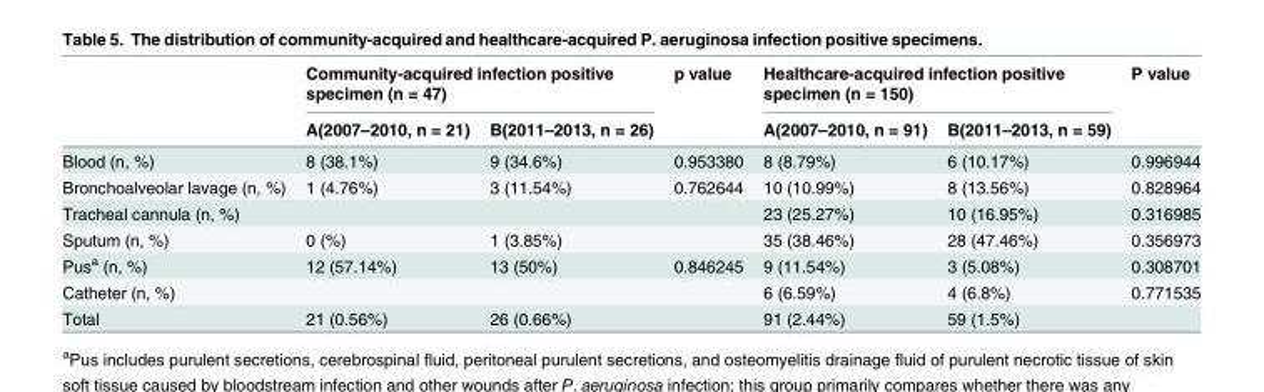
<table><thead><tr><td rowspan="2"></td><td colspan="2">Community-acquired infection positive specimen (n = 47)</td><td rowspan="2">p value</td><td colspan="2">Healthcare-acquired infection positive specimen (n = 150)</td><td rowspan="2">P value</td></tr><tr><td>A(2007–2010, n = 21)</td><td>B(2011–2013, n = 26)</td><td>A(2007–2010, n = 91)</td><td>B(2011–2013, n = 59)</td></tr></thead><tbody><tr><td>Blood (n, %)</td><td>8 (38.1%)</td><td>9 (34.6%)</td><td>0.953380</td><td>8 (8.79%)</td><td>6 (10.17%)</td><td>0.996944</td></tr><tr><td>Bronchoalveolar lavage (n, %)</td><td>1 (4.76%)</td><td>3 (11.54%)</td><td>0.762644</td><td>10 (10.99%)</td><td>8 (13.56%)</td><td>0.828964</td></tr><tr><td>Tracheal cannula (n, %)</td><td></td><td></td><td></td><td>23 (25.27%)</td><td>10 (16.95%)</td><td>0.316985</td></tr><tr><td>Sputum (n, %)</td><td>0 (%)</td><td>1 (3.85%)</td><td></td><td>35 (38.46%)</td><td>28 (47.46%)</td><td>0.356973</td></tr><tr><td>Pus<sup>a</sup> (n, %)</td><td>12 (57.14%)</td><td>13 (50%)</td><td>0.846245</td><td>9 (11.54%)</td><td>3 (5.08%)</td><td>0.308701</td></tr><tr><td>Catheter (n, %)</td><td></td><td></td><td></td><td>6 (6.59%)</td><td>4 (6.8%)</td><td>0.771535</td></tr><tr><td>Total</td><td>21 (0.56%)</td><td>26 (0.66%)</td><td></td><td>91 (2.44%)</td><td>59 (1.5%)</td><td></td></tr></tbody></table>